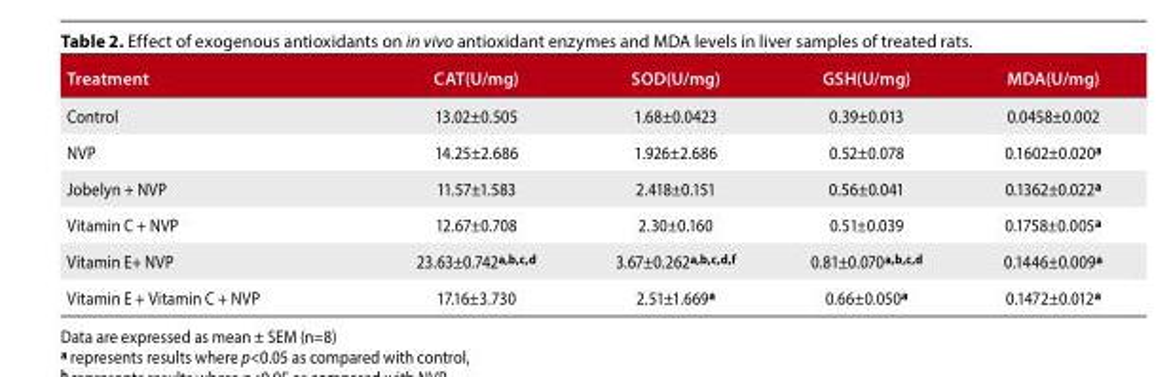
<table><thead><tr><td>Treatment</td><td>CAT(U/mg)</td><td>SOD(U/mg)</td><td>GSH(U/mg)</td><td>MDA(U/mg)</td></tr></thead><tbody><tr><td>Control</td><td>13.02±0.505</td><td>1.68±0.0423</td><td>0.39±0.013</td><td>0.0458±0.002</td></tr><tr><td>NVP</td><td>14.25±2.686</td><td>1.926±2.686</td><td>0.52±0.078</td><td>0.1602±0.020<sup>a</sup></td></tr><tr><td>Jobelyn + NVP</td><td>11.57±1.583</td><td>2.418±0.151</td><td>0.56±0.041</td><td>0.1362±0.022<sup>a</sup></td></tr><tr><td>Vitamin C + NVP</td><td>12.67±0.708</td><td>2.30±0.160</td><td>0.51±0.039</td><td>0.1758±0.005<sup>a</sup></td></tr><tr><td>Vitamin E+ NVP</td><td>23.63±0.742<sup>a,b,c,d</sup></td><td>3.67±0.262<sup>a,b,c,d,f</sup></td><td>0.81±0.070<sup>a,b,c,d</sup></td><td>0.1446±0.009<sup>a</sup></td></tr><tr><td>Vitamin E + Vitamin C + NVP</td><td>17.16±3.730</td><td>2.51±1.669<sup>a</sup></td><td>0.66±0.050<sup>a</sup></td><td>0.1472±0.012<sup>a</sup></td></tr></tbody></table>